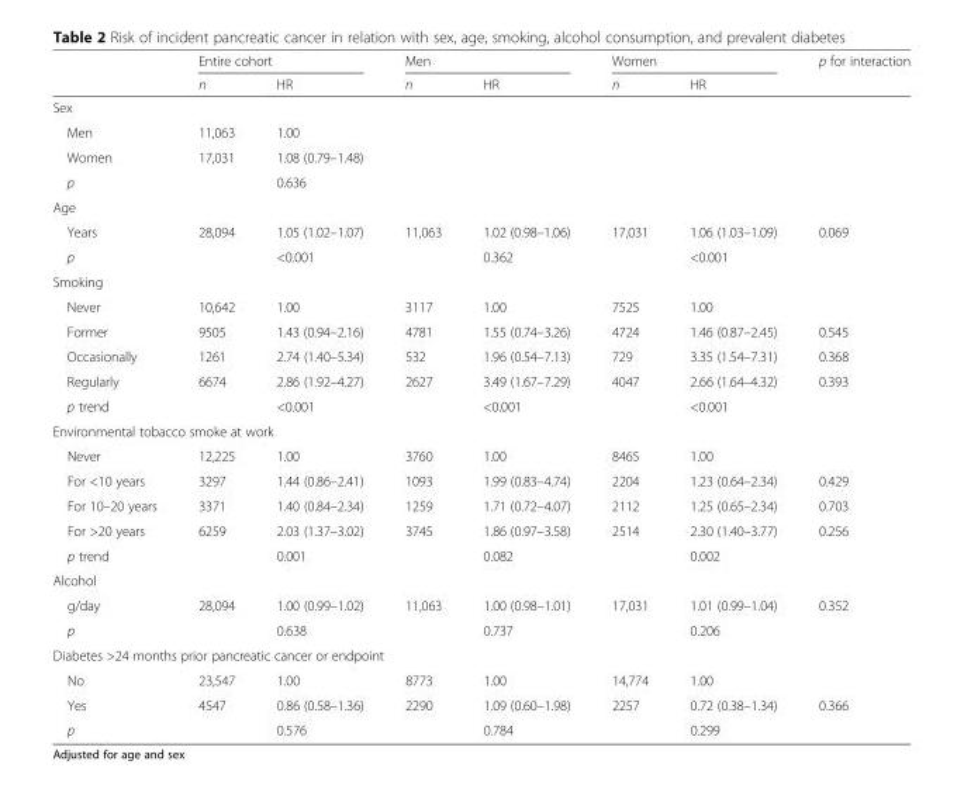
<table><thead><tr><td rowspan="2"></td><td colspan="2">Entire cohort</td><td colspan="2">Men</td><td colspan="2">Women</td><td rowspan="2">p for interaction</td></tr><tr><td>n</td><td>HR</td><td>n</td><td>HR</td><td>n</td><td>HR</td></tr></thead><tbody><tr><td colspan="8">Sex</td></tr><tr><td>Men</td><td>11,063</td><td>1.00</td><td></td><td></td><td></td><td></td><td></td></tr><tr><td>Women</td><td>17,031</td><td>1.08 (0.79–1.48)</td><td></td><td></td><td></td><td></td><td></td></tr><tr><td>p</td><td></td><td>0.636</td><td></td><td></td><td></td><td></td><td></td></tr><tr><td colspan="8">Age</td></tr><tr><td>Years</td><td>28,094</td><td>1.05 (1.02–1.07)</td><td>11,063</td><td>1.02 (0.98–1.06)</td><td>17,031</td><td>1.06 (1.03–1.09)</td><td>0.069</td></tr><tr><td>p</td><td></td><td>&lt;0.001</td><td></td><td>0.362</td><td></td><td>&lt;0.001</td><td></td></tr><tr><td colspan="8">Smoking</td></tr><tr><td>Never</td><td>10,642</td><td>1.00</td><td>3117</td><td>1.00</td><td>7525</td><td>1.00</td><td></td></tr><tr><td>Former</td><td>9505</td><td>1.43 (0.94–2.16)</td><td>4781</td><td>1.55 (0.74–3.26)</td><td>4724</td><td>1.46 (0.87–2.45)</td><td>0.545</td></tr><tr><td>Occasionally</td><td>1261</td><td>2.74 (1.40–5.34)</td><td>532</td><td>1.96 (0.54–7.13)</td><td>729</td><td>3.35 (1.54–7.31)</td><td>0.368</td></tr><tr><td>Regularly</td><td>6674</td><td>2.86 (1.92–4.27)</td><td>2627</td><td>3.49 (1.67–7.29)</td><td>4047</td><td>2.66 (1.64–4.32)</td><td>0.393</td></tr><tr><td>p trend</td><td></td><td>&lt;0.001</td><td></td><td>&lt;0.001</td><td></td><td>&lt;0.001</td><td></td></tr><tr><td colspan="8">Environmental tobacco smoke at work</td></tr><tr><td>Never</td><td>12,225</td><td>1.00</td><td>3760</td><td>1.00</td><td>8465</td><td>1.00</td><td></td></tr><tr><td>For &lt;10 years</td><td>3297</td><td>1.44 (0.86–2.41)</td><td>1093</td><td>1.99 (0.83–4.74)</td><td>2204</td><td>1.23 (0.64–2.34)</td><td>0.429</td></tr><tr><td>For 10–20 years</td><td>3371</td><td>1.40 (0.84–2.34)</td><td>1259</td><td>1.71 (0.72–4.07)</td><td>2112</td><td>1.25 (0.65–2.34)</td><td>0.703</td></tr><tr><td>For &gt;20 years</td><td>6259</td><td>2.03 (1.37–3.02)</td><td>3745</td><td>1.86 (0.97–3.58)</td><td>2514</td><td>2.30 (1.40–3.77)</td><td>0.256</td></tr><tr><td>p trend</td><td></td><td>0.001</td><td></td><td>0.082</td><td></td><td>0.002</td><td></td></tr><tr><td colspan="8">Alcohol</td></tr><tr><td>g/day</td><td>28,094</td><td>1.00 (0.99–1.02)</td><td>11,063</td><td>1.00 (0.98–1.01)</td><td>17,031</td><td>1.01 (0.99–1.04)</td><td>0.352</td></tr><tr><td>p</td><td></td><td>0.638</td><td></td><td>0.737</td><td></td><td>0.206</td><td></td></tr><tr><td colspan="8">Diabetes &gt;24 months prior pancreatic cancer or endpoint</td></tr><tr><td>No</td><td>23,547</td><td>1.00</td><td>8773</td><td>1.00</td><td>14,774</td><td>1.00</td><td></td></tr><tr><td>Yes</td><td>4547</td><td>0.86 (0.58–1.36)</td><td>2290</td><td>1.09 (0.60–1.98)</td><td>2257</td><td>0.72 (0.38–1.34)</td><td>0.366</td></tr><tr><td>p</td><td></td><td>0.576</td><td></td><td>0.784</td><td></td><td>0.299</td><td></td></tr></tbody></table>